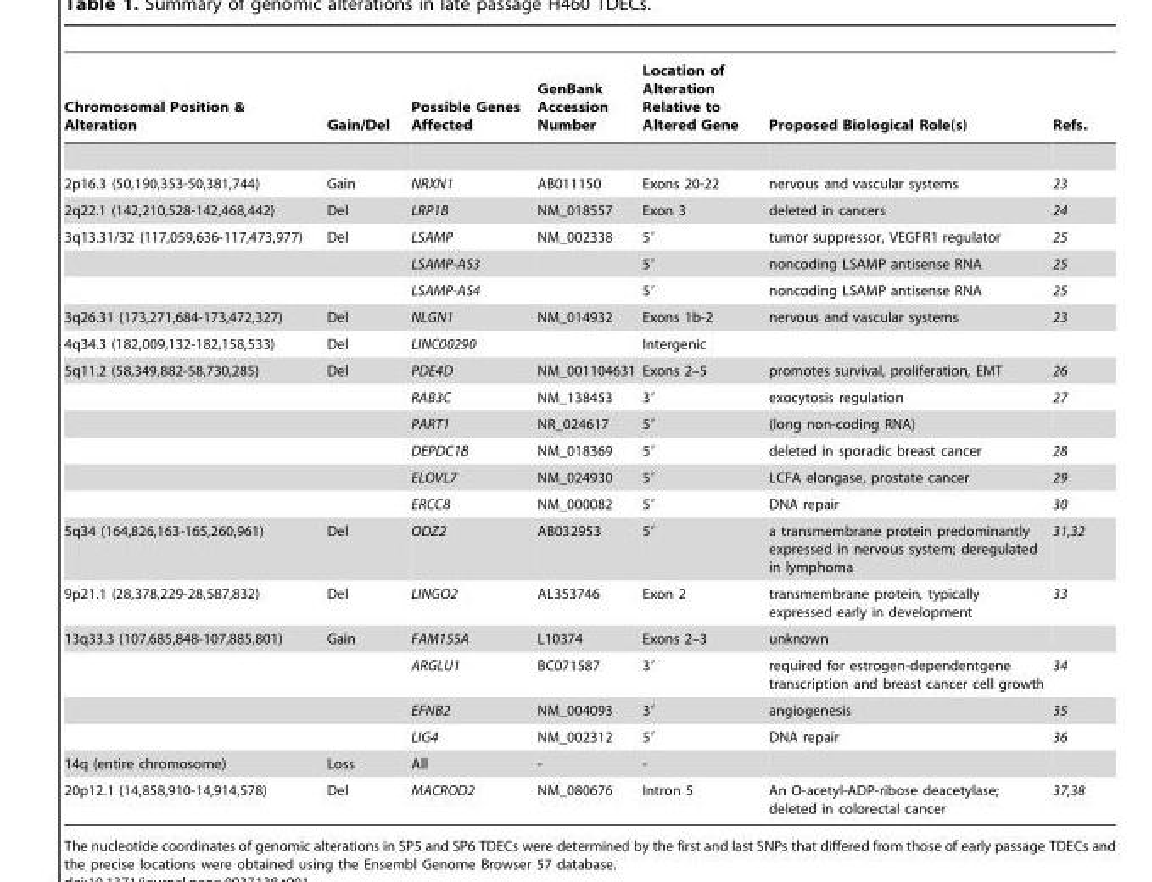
<table><thead><tr><td>Chromosomal Position &amp; Alteration</td><td>Gain/Del</td><td>Possible Genes Affected</td><td>GenBank Accession Number</td><td>Location of Alteration Relative to Altered Gene</td><td>Proposed Biological Role(s)</td><td>Refs.</td></tr></thead><tbody><tr><td>2p16.3 (50,190,353-50,381,744)</td><td>Gain</td><td>NRXN1</td><td>AB011150</td><td>Exons 20-22</td><td>nervous and vascular systems</td><td>23</td></tr><tr><td>2q22.1 (142,210,528-142,468,442)</td><td>Del</td><td>LRP1B</td><td>NM_018557</td><td>Exon 3</td><td>deleted in cancers</td><td>24</td></tr><tr><td rowspan="3">3q13.31/32 (117,059,636-117,473,977)</td><td>Del</td><td>LSAMP</td><td>NM_002338</td><td>5′</td><td>tumor suppressor, VEGFR1 regulator</td><td>25</td></tr><tr><td></td><td>LSAMP-AS3</td><td></td><td>5′</td><td>noncoding LSAMP antisense RNA</td><td>25</td></tr><tr><td></td><td>LSAMP-AS4</td><td></td><td>5′</td><td>noncoding LSAMP antisense RNA</td><td>25</td></tr><tr><td>3q26.31 (173,271,684-173,472,327)</td><td>Del</td><td>NLGN1</td><td>NM_014932</td><td>Exons 1b-2</td><td>nervous and vascular systems</td><td>23</td></tr><tr><td>4q34.3 (182,009,132-182,158,533)</td><td>Del</td><td>LINC00290</td><td></td><td>Intergenic</td><td></td><td></td></tr><tr><td rowspan="6">5q11.2 (58,349,882-58,730,285)</td><td>Del</td><td>PDE4D</td><td>NM_001104631</td><td>Exons 2–5</td><td>promotes survival, proliferation, EMT</td><td>26</td></tr><tr><td></td><td>RAB3C</td><td>NM_138453</td><td>3′</td><td>exocytosis regulation</td><td>27</td></tr><tr><td></td><td>PART1</td><td>NR_024617</td><td>5′</td><td>(long non-coding RNA)</td><td></td></tr><tr><td></td><td>DEPDC1B</td><td>NM_018369</td><td>5′</td><td>deleted in sporadic breast cancer</td><td>28</td></tr><tr><td></td><td>ELOVL7</td><td>NM_024930</td><td>5′</td><td>LCFA elongase, prostate cancer</td><td>29</td></tr><tr><td></td><td>ERCC8</td><td>NM_000082</td><td>5′</td><td>DNA repair</td><td>30</td></tr><tr><td>5q34 (164,826,163-165,260,961)</td><td>Del</td><td>ODZ2</td><td>AB032953</td><td>5′</td><td>a transmembrane protein predominantly expressed in nervous system; deregulated in lymphoma</td><td>31,32</td></tr><tr><td>9p21.1 (28,378,229-28,587,832)</td><td>Del</td><td>LINGO2</td><td>AL353746</td><td>Exon 2</td><td>transmembrane protein, typically expressed early in development</td><td>33</td></tr><tr><td rowspan="4">13q33.3 (107,685,848-107,885,801)</td><td>Gain</td><td>FAM155A</td><td>L10374</td><td>Exons 2–3</td><td>unknown</td><td></td></tr><tr><td></td><td>ARGLU1</td><td>BC071587</td><td>3′</td><td>required for estrogen-dependentgene transcription and breast cancer cell growth</td><td>34</td></tr><tr><td></td><td>EFNB2</td><td>NM_004093</td><td>3′</td><td>angiogenesis</td><td>35</td></tr><tr><td></td><td>LIG4</td><td>NM_002312</td><td>5′</td><td>DNA repair</td><td>36</td></tr><tr><td>14q (entire chromosome)</td><td>Loss</td><td>All</td><td>-</td><td>-</td><td></td><td></td></tr><tr><td>20p12.1 (14,858,910-14,914,578)</td><td>Del</td><td>MACROD2</td><td>NM_080676</td><td>Intron 5</td><td>An O-acetyl-ADP-ribose deacetylase; deleted in colorectal cancer</td><td>37,38</td></tr></tbody></table>